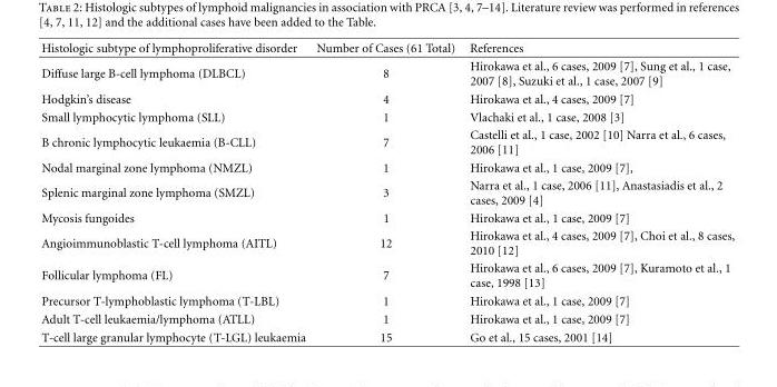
<table><thead><tr><td>Histologic subtype of lymphoproliferative disorder</td><td>Number of Cases (61 Total)</td><td>References</td></tr></thead><tbody><tr><td>Diffuse large B-cell lymphoma (DLBCL)</td><td>8</td><td>Hirokawa et al., 6 cases, 2009 [7], Sung et al., 1 case, 2007 [8], Suzuki et al., 1 case, 2007 [9]</td></tr><tr><td>Hodgkin’s disease</td><td>4</td><td>Hirokawa et al., 4 cases, 2009 [7]</td></tr><tr><td>Small lymphocytic lymphoma (SLL)</td><td>1</td><td>Vlachaki et al., 1 case, 2008 [3]</td></tr><tr><td>B chronic lymphocytic leukaemia (B-CLL)</td><td>7</td><td>Castelli et al., 1 case, 2002 [10] Narra et al., 6 cases, 2006 [11]</td></tr><tr><td>Nodal marginal zone lymphoma (NMZL)</td><td>1</td><td>Hirokawa et al., 1 case, 2009 [7],</td></tr><tr><td>Splenic marginal zone lymphoma (SMZL)</td><td>3</td><td>Narra et al., 1 case, 2006 [11], Anastasiadis et al., 2 cases, 2009 [4]</td></tr><tr><td>Mycosis fungoides</td><td>1</td><td>Hirokawa et al., 1 case, 2009 [7]</td></tr><tr><td>Angioimmunoblastic T-cell lymphoma (AITL)</td><td>12</td><td>Hirokawa et al., 4 cases, 2009 [7], Choi et al., 8 cases, 2010 [12]</td></tr><tr><td>Follicular lymphoma (FL)</td><td>7</td><td>Hirokawa et al., 6 cases, 2009 [7], Kuramoto et al., 1 case, 1998 [13]</td></tr><tr><td>Precursor T-lymphoblastic lymphoma (T-LBL)</td><td>1</td><td>Hirokawa et al., 1 case, 2009 [7]</td></tr><tr><td>Adult T-cell leukaemia/lymphoma (ATLL)</td><td>1</td><td>Hirokawa et al., 1 case, 2009 [7]</td></tr><tr><td>T-cell large granular lymphocyte (T-LGL) leukaemia</td><td>15</td><td>Go et al., 15 cases, 2001 [14]</td></tr></tbody></table>